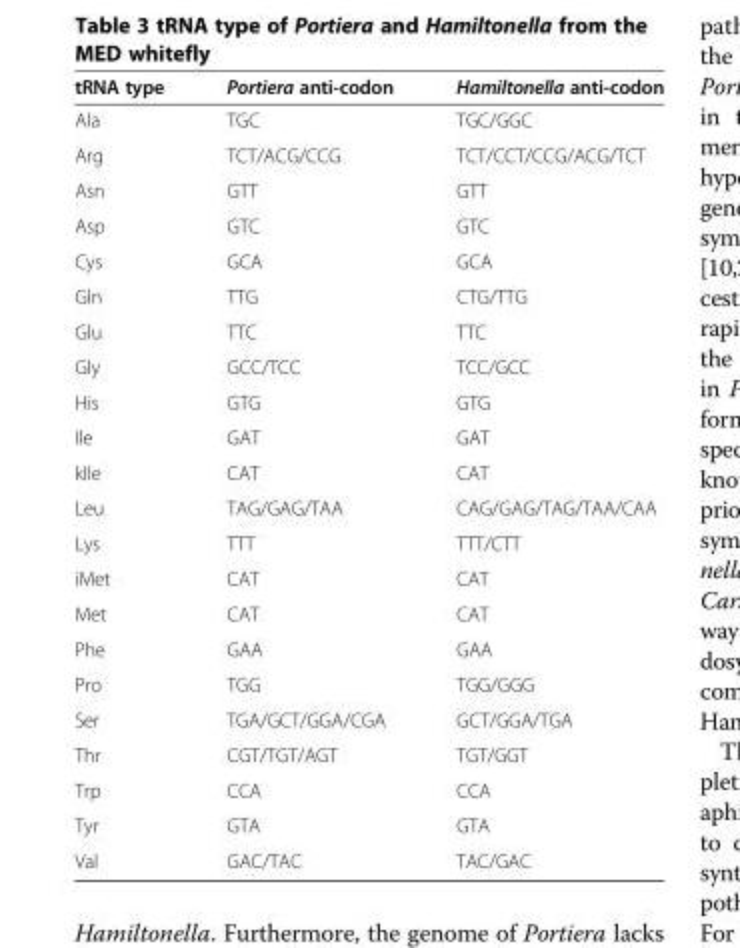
<table><thead><tr><td>tRNA type</td><td>Portiera anti-codon</td><td>Hamiltonella anti-codon</td></tr></thead><tbody><tr><td>Ala</td><td>TGC</td><td>TGC/GGC</td></tr><tr><td>Arg</td><td>TCT/ACG/CCG</td><td>TCT/CCT/CCG/ACG/TCT</td></tr><tr><td>Asn</td><td>GTT</td><td>GTT</td></tr><tr><td>Asp</td><td>GTC</td><td>GTC</td></tr><tr><td>Cys</td><td>GCA</td><td>GCA</td></tr><tr><td>Gln</td><td>TTG</td><td>CTG/TTG</td></tr><tr><td>Glu</td><td>TTC</td><td>TTC</td></tr><tr><td>Gly</td><td>GCC/TCC</td><td>TCC/GCC</td></tr><tr><td>His</td><td>GTG</td><td>GTG</td></tr><tr><td>Ile</td><td>GAT</td><td>GAT</td></tr><tr><td>kIle</td><td>CAT</td><td>CAT</td></tr><tr><td>Leu</td><td>TAG/GAG/TAA</td><td>CAG/GAG/TAG/TAA/CAA</td></tr><tr><td>Lys</td><td>TTT</td><td>TTT/CTT</td></tr><tr><td>iMet</td><td>CAT</td><td>CAT</td></tr><tr><td>Met</td><td>CAT</td><td>CAT</td></tr><tr><td>Phe</td><td>GAA</td><td>GAA</td></tr><tr><td>Pro</td><td>TGG</td><td>TGG/GGG</td></tr><tr><td>Ser</td><td>TGA/GCT/GGA/CGA</td><td>GCT/GGA/TGA</td></tr><tr><td>Thr</td><td>CGT/TGT/AGT</td><td>TGT/GGT</td></tr><tr><td>Trp</td><td>CCA</td><td>CCA</td></tr><tr><td>Tyr</td><td>GTA</td><td>GTA</td></tr><tr><td>Val</td><td>GAC/TAC</td><td>TAC/GAC</td></tr></tbody></table>